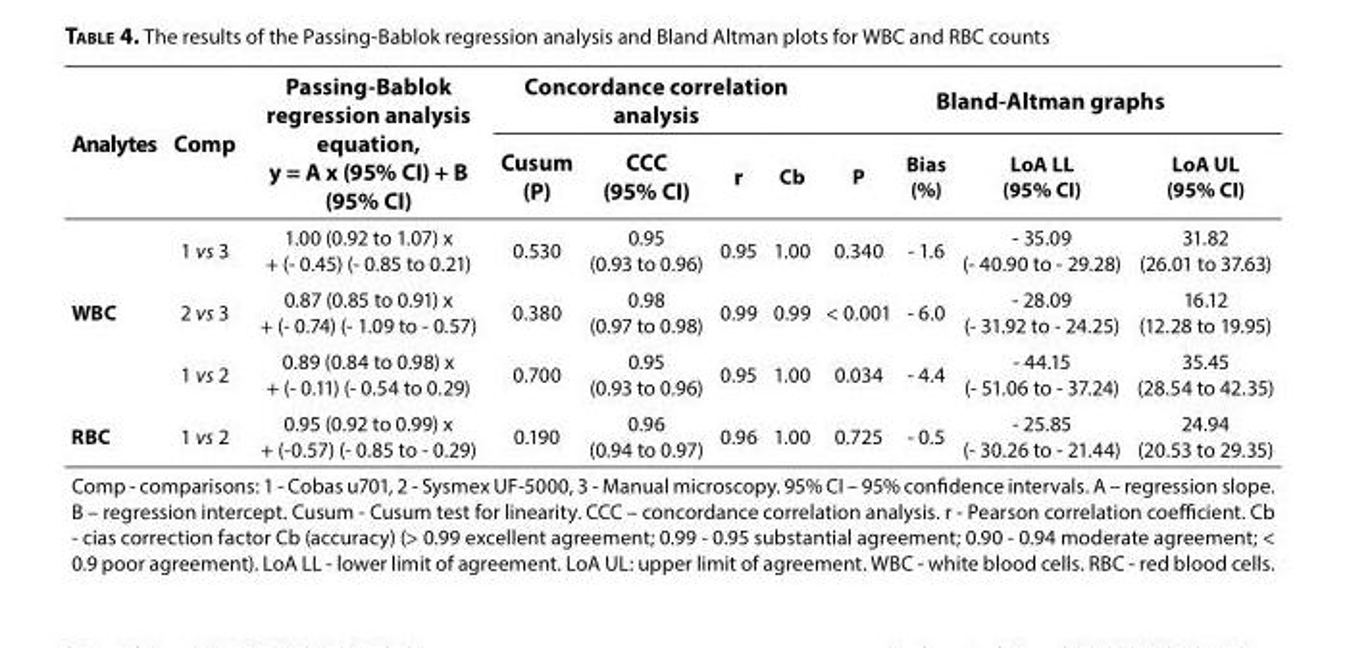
<table><thead><tr><td rowspan="2">Analytes</td><td rowspan="2">Comp</td><td rowspan="2">Passing-Bablok regression analysis equation, y = A x (95% CI) + B (95% CI)</td><td colspan="4">Concordance correlation analysis</td><td colspan="4">Bland-Altman graphs</td></tr><tr><td>Cusum (P)</td><td>CCC (95% CI)</td><td>r</td><td>Cb</td><td>P</td><td>Bias (%)</td><td>LoA LL (95% CI)</td><td>LoA UL (95% CI)</td></tr></thead><tbody><tr><td rowspan="3">WBC</td><td>1 vs 3</td><td>1.00 (0.92 to 1.07) x + (- 0.45) (- 0.85 to 0.21)</td><td>0.530</td><td>0.95 (0.93 to 0.96)</td><td>0.95</td><td>1.00</td><td>0.340</td><td>- 1.6</td><td>- 35.09 (- 40.90 to - 29.28)</td><td>31.82 (26.01 to 37.63)</td></tr><tr><td>2 vs 3</td><td>0.87 (0.85 to 0.91) x + (- 0.74) (- 1.09 to - 0.57)</td><td>0.380</td><td>0.98 (0.97 to 0.98)</td><td>0.99</td><td>0.99</td><td>&lt; 0.001</td><td>- 6.0</td><td>- 28.09 (- 31.92 to - 24.25)</td><td>16.12 (12.28 to 19.95)</td></tr><tr><td>1 vs 2</td><td>0.89 (0.84 to 0.98) x + (- 0.11) (- 0.54 to 0.29)</td><td>0.700</td><td>0.95 (0.93 to 0.96)</td><td>0.95</td><td>1.00</td><td>0.034</td><td>- 4.4</td><td>- 44.15 (- 51.06 to - 37.24)</td><td>35.45 (28.54 to 42.35)</td></tr><tr><td>RBC</td><td>1 vs 2</td><td>0.95 (0.92 to 0.99) x + (-0.57) (- 0.85 to - 0.29)</td><td>0.190</td><td>0.96 (0.94 to 0.97)</td><td>0.96</td><td>1.00</td><td>0.725</td><td>- 0.5</td><td>- 25.85 (- 30.26 to - 21.44)</td><td>24.94 (20.53 to 29.35)</td></tr><tr><td colspan="11">Comp - comparisons: 1 - Cobas u701, 2 - Sysmex UF-5000, 3 - Manual microscopy. 95% CI – 95% confidence intervals. A – regression slope. B – regression intercept. Cusum - Cusum test for linearity. CCC – concordance correlation analysis. r - Pearson correlation coefficient. Cb - cias correction factor Cb (accuracy) (&gt; 0.99 excellent agreement; 0.99 - 0.95 substantial agreement; 0.90 - 0.94 moderate agreement; &lt; 0.9 poor agreement). LoA LL - lower limit of agreement. LoA UL: upper limit of agreement. WBC - white blood cells. RBC - red blood cells.</td></tr></tbody></table>